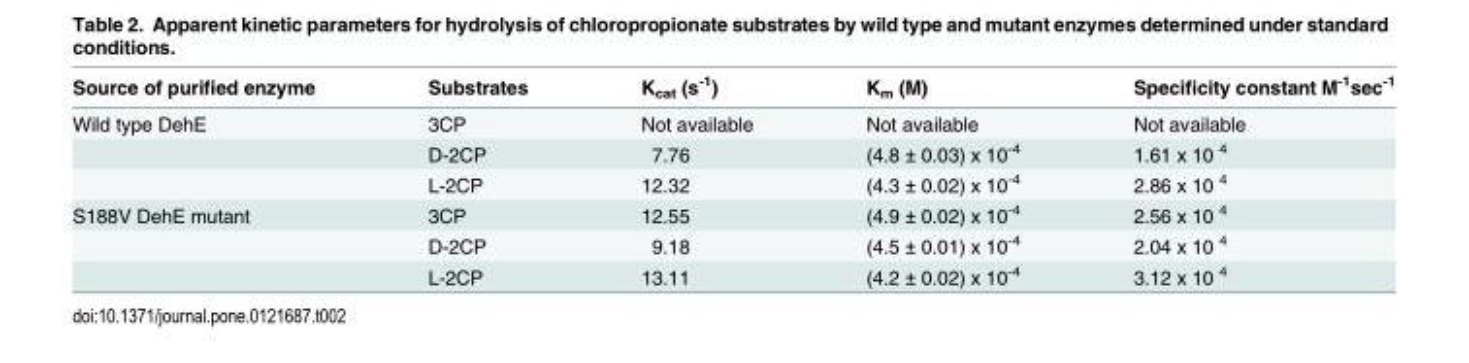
<table><thead><tr><td>Source of purified enzyme</td><td>Substrates</td><td>K<sub>cat</sub> (s<sup>-1</sup>)</td><td>K<sub>m</sub> (M)</td><td>Specificity constant M<sup>-1</sup>sec<sup>-1</sup></td></tr></thead><tbody><tr><td rowspan="3">Wild type DehE</td><td>3CP</td><td>Not available</td><td>Not available</td><td>Not available</td></tr><tr><td>D-2CP</td><td>7.76</td><td>(4.8 ± 0.03) x 10<sup>-4</sup></td><td>1.61 x 10 <sup>4</sup></td></tr><tr><td>L-2CP</td><td>12.32</td><td>(4.3 ± 0.02) x 10<sup>-4</sup></td><td>2.86 x 10 <sup>4</sup></td></tr><tr><td rowspan="3">S188V DehE mutant</td><td>3CP</td><td>12.55</td><td>(4.9 ± 0.02) x 10<sup>-4</sup></td><td>2.56 x 10 <sup>4</sup></td></tr><tr><td>D-2CP</td><td>9.18</td><td>(4.5 ± 0.01) x 10<sup>-4</sup></td><td>2.04 x 10 <sup>4</sup></td></tr><tr><td>L-2CP</td><td>13.11</td><td>(4.2 ± 0.02) x 10<sup>-4</sup></td><td>3.12 x 10 <sup>4</sup></td></tr></tbody></table>